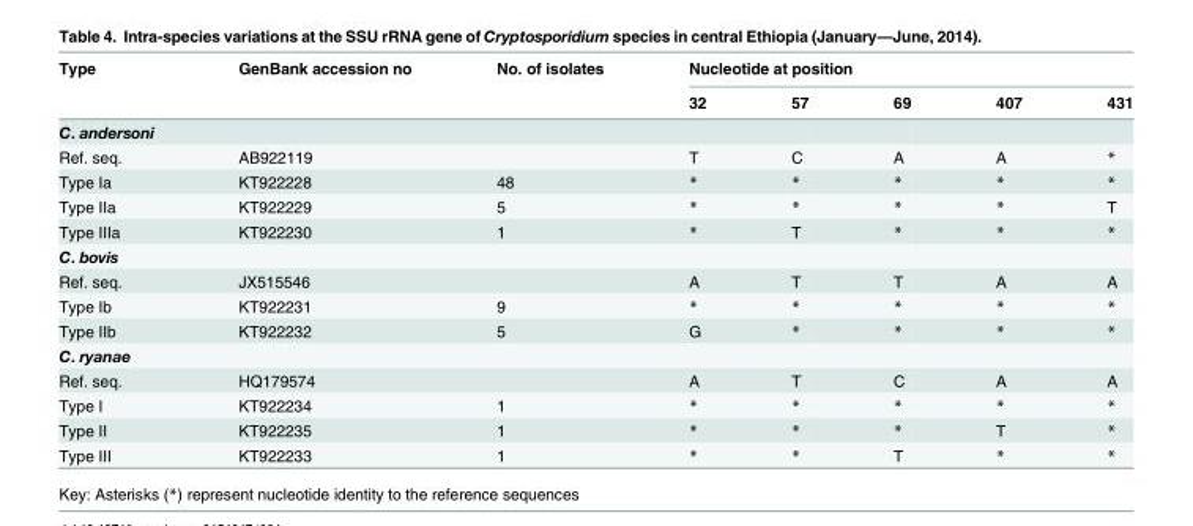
<table><thead><tr><td rowspan="2">Type</td><td rowspan="2">GenBank accession no</td><td rowspan="2">No. of isolates</td><td colspan="5">Nucleotide at position</td></tr><tr><td>32</td><td>57</td><td>69</td><td>407</td><td>431</td></tr></thead><tbody><tr><td colspan="8">C. andersoni</td></tr><tr><td>Ref. seq.</td><td>AB922119</td><td></td><td>T</td><td>C</td><td>A</td><td>A</td><td>*</td></tr><tr><td>Type Ia</td><td>KT922228</td><td>48</td><td>*</td><td>*</td><td>*</td><td>*</td><td>*</td></tr><tr><td>Type IIa</td><td>KT922229</td><td>5</td><td>*</td><td>*</td><td>*</td><td>*</td><td>T</td></tr><tr><td>Type IIIa</td><td>KT922230</td><td>1</td><td>*</td><td>T</td><td>*</td><td>*</td><td>*</td></tr><tr><td colspan="8">C. bovis</td></tr><tr><td>Ref. seq.</td><td>JX515546</td><td></td><td>A</td><td>T</td><td>T</td><td>A</td><td>A</td></tr><tr><td>Type Ib</td><td>KT922231</td><td>9</td><td>*</td><td>*</td><td>*</td><td>*</td><td>*</td></tr><tr><td>Type IIb</td><td>KT922232</td><td>5</td><td>G</td><td>*</td><td>*</td><td>*</td><td>*</td></tr><tr><td colspan="8">C. ryanae</td></tr><tr><td>Ref. seq.</td><td>HQ179574</td><td></td><td>A</td><td>T</td><td>C</td><td>A</td><td>A</td></tr><tr><td>Type I</td><td>KT922234</td><td>1</td><td>*</td><td>*</td><td>*</td><td>*</td><td>*</td></tr><tr><td>Type II</td><td>KT922235</td><td>1</td><td>*</td><td>*</td><td>*</td><td>T</td><td>*</td></tr><tr><td>Type III</td><td>KT922233</td><td>1</td><td>*</td><td>*</td><td>T</td><td>*</td><td>*</td></tr></tbody></table>